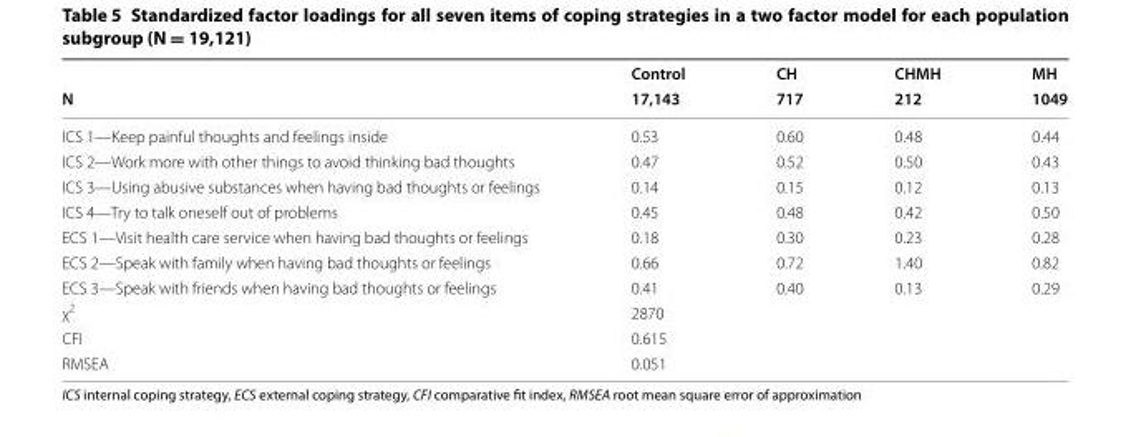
<table><thead><tr><td rowspan="2">N</td><td rowspan="2">Control 17,143</td><td rowspan="2">CH 717</td><td rowspan="2">CHMH 212</td><td rowspan="2">MH 1049</td></tr><tr></tr></thead><tbody><tr><td>ICS 1—Keep painful thoughts and feelings inside</td><td>0.53</td><td>0.60</td><td>0.48</td><td>0.44</td></tr><tr><td>ICS 2—Work more with other things to avoid thinking bad thoughts</td><td>0.47</td><td>0.52</td><td>0.50</td><td>0.43</td></tr><tr><td>ICS 3—Using abusive substances when having bad thoughts or feelings</td><td>0.14</td><td>0.15</td><td>0.12</td><td>0.13</td></tr><tr><td>ICS 4—Try to talk oneself out of problems</td><td>0.45</td><td>0.48</td><td>0.42</td><td>0.50</td></tr><tr><td>ECS 1—Visit health care service when having bad thoughts or feelings</td><td>0.18</td><td>0.30</td><td>0.23</td><td>0.28</td></tr><tr><td>ECS 2—Speak with family when having bad thoughts or feelings</td><td>0.66</td><td>0.72</td><td>1.40</td><td>0.82</td></tr><tr><td>ECS 3—Speak with friends when having bad thoughts or feelings</td><td>0.41</td><td>0.40</td><td>0.13</td><td>0.29</td></tr><tr><td>χ<sup>2</sup></td><td colspan="4">2870</td></tr><tr><td>CFI</td><td colspan="4">0.615</td></tr><tr><td>RMSEA</td><td colspan="4">0.051</td></tr></tbody></table>